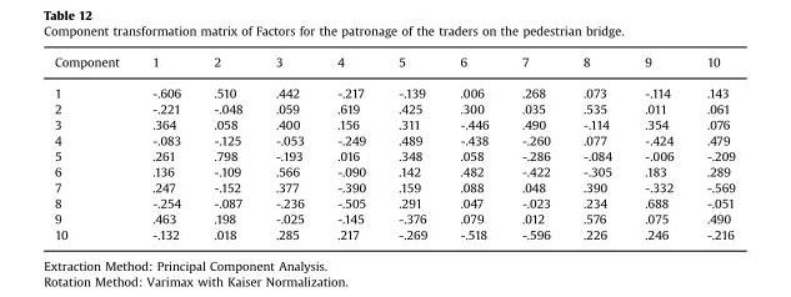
<table><thead><tr><td>Component</td><td>1</td><td>2</td><td>3</td><td>4</td><td>5</td><td>6</td><td>7</td><td>8</td><td>9</td><td>10</td></tr></thead><tbody><tr><td>1</td><td>-.606</td><td>.510</td><td>.442</td><td>-.217</td><td>-.139</td><td>.006</td><td>.268</td><td>.073</td><td>-.114</td><td>.143</td></tr><tr><td>2</td><td>-.221</td><td>-.048</td><td>.059</td><td>.619</td><td>.425</td><td>.300</td><td>.035</td><td>.535</td><td>.011</td><td>.061</td></tr><tr><td>3</td><td>.364</td><td>.058</td><td>.400</td><td>.156</td><td>.311</td><td>-.446</td><td>.490</td><td>-.114</td><td>.354</td><td>.076</td></tr><tr><td>4</td><td>-.083</td><td>-.125</td><td>-.053</td><td>-.249</td><td>.489</td><td>-.438</td><td>-.260</td><td>.077</td><td>-.424</td><td>.479</td></tr><tr><td>5</td><td>.261</td><td>.798</td><td>-.193</td><td>.016</td><td>.348</td><td>.058</td><td>-.286</td><td>-.084</td><td>-.006</td><td>-.209</td></tr><tr><td>6</td><td>.136</td><td>-.109</td><td>.566</td><td>-.090</td><td>.142</td><td>.482</td><td>-.422</td><td>-.305</td><td>.183</td><td>.289</td></tr><tr><td>7</td><td>.247</td><td>-.152</td><td>.377</td><td>-.390</td><td>.159</td><td>.088</td><td>.048</td><td>.390</td><td>-.332</td><td>-.569</td></tr><tr><td>8</td><td>-.254</td><td>-.087</td><td>-.236</td><td>-.505</td><td>.291</td><td>.047</td><td>-.023</td><td>.234</td><td>.688</td><td>-.051</td></tr><tr><td>9</td><td>.463</td><td>.198</td><td>-.025</td><td>-.145</td><td>-.376</td><td>.079</td><td>.012</td><td>.576</td><td>.075</td><td>.490</td></tr><tr><td>10</td><td>-.132</td><td>.018</td><td>.285</td><td>.217</td><td>-.269</td><td>-.518</td><td>-.596</td><td>.226</td><td>.246</td><td>-.216</td></tr></tbody></table>